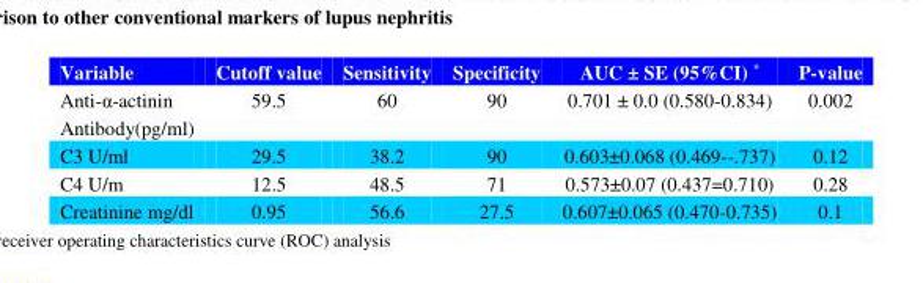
<table><thead><tr><td>Variable</td><td>Cutoff value</td><td>Sensitivity</td><td>Specificity</td><td>AUC ± SE (95%CI) *</td><td>P-value</td></tr></thead><tbody><tr><td>Anti-α-actinin Antibody(pg/ml)</td><td>59.5</td><td>60</td><td>90</td><td>0.701 ± 0.0 (0.580-0.834)</td><td>0.002</td></tr><tr><td>C3 U/ml</td><td>29.5</td><td>38.2</td><td>90</td><td>0.603±0.068 (0.469--.737)</td><td>0.12</td></tr><tr><td>C4 U/m</td><td>12.5</td><td>48.5</td><td>71</td><td>0.573±0.07 (0.437=0.710)</td><td>0.28</td></tr><tr><td>Creatinine mg/dl</td><td>0.95</td><td>56.6</td><td>27.5</td><td>0.607±0.065 (0.470-0.735)</td><td>0.1</td></tr></tbody></table>